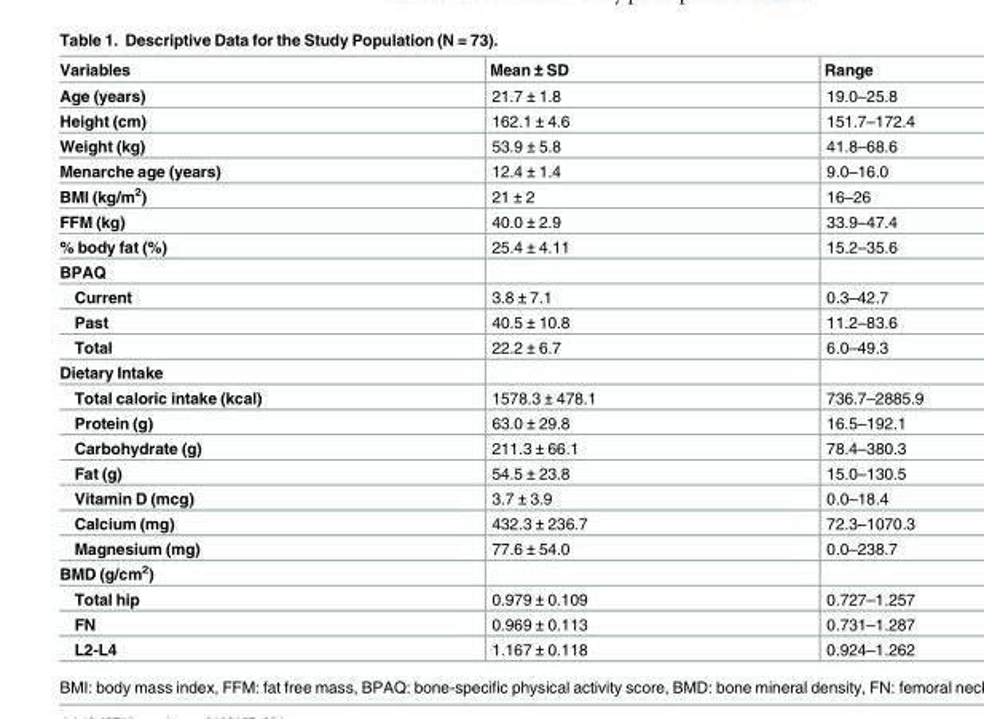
<table><thead><tr><td>Variables</td><td>Mean ± SD</td><td>Range</td></tr></thead><tbody><tr><td>Age (years)</td><td>21.7 ± 1.8</td><td>19.0–25.8</td></tr><tr><td>Height (cm)</td><td>162.1 ± 4.6</td><td>151.7–172.4</td></tr><tr><td>Weight (kg)</td><td>53.9 ± 5.8</td><td>41.8–68.6</td></tr><tr><td>Menarche age (years)</td><td>12.4 ± 1.4</td><td>9.0–16.0</td></tr><tr><td>BMI (kg/m<sup>2</sup>)</td><td>21 ± 2</td><td>16–26</td></tr><tr><td>FFM (kg)</td><td>40.0 ± 2.9</td><td>33.9–47.4</td></tr><tr><td>% body fat (%)</td><td>25.4 ± 4.11</td><td>15.2–35.6</td></tr><tr><td colspan="3">BPAQ</td></tr><tr><td>Current</td><td>3.8 ± 7.1</td><td>0.3–42.7</td></tr><tr><td>Past</td><td>40.5 ± 10.8</td><td>11.2–83.6</td></tr><tr><td>Total</td><td>22.2 ± 6.7</td><td>6.0–49.3</td></tr><tr><td colspan="3">Dietary Intake</td></tr><tr><td>Total caloric intake (kcal)</td><td>1578.3 ± 478.1</td><td>736.7–2885.9</td></tr><tr><td>Protein (g)</td><td>63.0 ± 29.8</td><td>16.5–192.1</td></tr><tr><td>Carbohydrate (g)</td><td>211.3 ± 66.1</td><td>78.4–380.3</td></tr><tr><td>Fat (g)</td><td>54.5 ± 23.8</td><td>15.0–130.5</td></tr><tr><td>Vitamin D (mcg)</td><td>3.7 ± 3.9</td><td>0.0–18.4</td></tr><tr><td>Calcium (mg)</td><td>432.3 ± 236.7</td><td>72.3–1070.3</td></tr><tr><td>Magnesium (mg)</td><td>77.6 ± 54.0</td><td>0.0–238.7</td></tr><tr><td colspan="3">BMD (g/cm<sup>2</sup>)</td></tr><tr><td>Total hip</td><td>0.979 ± 0.109</td><td>0.727–1.257</td></tr><tr><td>FN</td><td>0.969 ± 0.113</td><td>0.731–1.287</td></tr><tr><td>L2-L4</td><td>1.167 ± 0.118</td><td>0.924–1.262</td></tr></tbody></table>